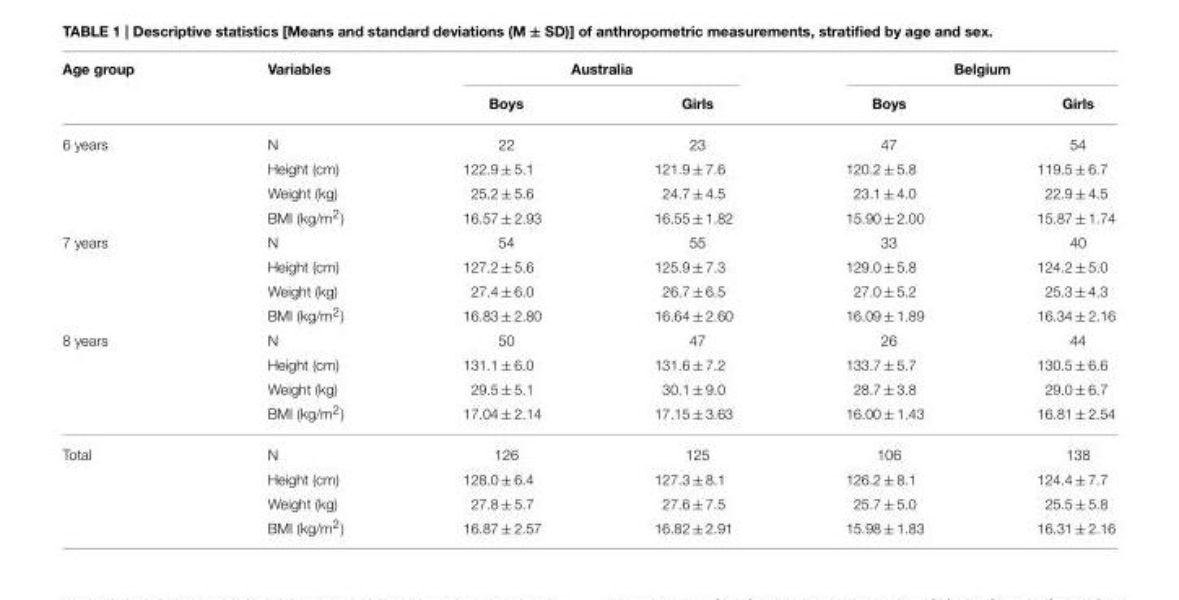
<table><thead><tr><td rowspan="2">Age group</td><td rowspan="2">Variables</td><td colspan="2">Australia</td><td colspan="2">Belgium</td></tr><tr><td>Boys</td><td>Girls</td><td>Boys</td><td>Girls</td></tr></thead><tbody><tr><td rowspan="4">6 years</td><td>N</td><td>22</td><td>23</td><td>47</td><td>54</td></tr><tr><td>Height (cm)</td><td>122.9 ± 5.1</td><td>121.9 ± 7.6</td><td>120.2 ± 5.8</td><td>119.5 ± 6.7</td></tr><tr><td>Weight (kg)</td><td>25.2 ± 5.6</td><td>24.7 ± 4.5</td><td>23.1 ± 4.0</td><td>22.9 ± 4.5</td></tr><tr><td>BMI (kg/m<sup>2</sup>)</td><td>16.57 ± 2.93</td><td>16.55 ± 1.82</td><td>15.90 ± 2.00</td><td>15.87 ± 1.74</td></tr><tr><td rowspan="4">7 years</td><td>N</td><td>54</td><td>55</td><td>33</td><td>40</td></tr><tr><td>Height (cm)</td><td>127.2 ± 5.6</td><td>125.9 ± 7.3</td><td>129.0 ± 5.8</td><td>124.2 ± 5.0</td></tr><tr><td>Weight (kg)</td><td>27.4 ± 6.0</td><td>26.7 ± 6.5</td><td>27.0 ± 5.2</td><td>25.3 ± 4.3</td></tr><tr><td>BMI (kg/m<sup>2</sup>)</td><td>16.83 ± 2.80</td><td>16.64 ± 2.60</td><td>16.09 ± 1.89</td><td>16.34 ± 2.16</td></tr><tr><td rowspan="4">8 years</td><td>N</td><td>50</td><td>47</td><td>26</td><td>44</td></tr><tr><td>Height (cm)</td><td>131.1 ± 6.0</td><td>131.6 ± 7.2</td><td>133.7 ± 5.7</td><td>130.5 ± 6.6</td></tr><tr><td>Weight (kg)</td><td>29.5 ± 5.1</td><td>30.1 ± 9.0</td><td>28.7 ± 3.8</td><td>29.0 ± 6.7</td></tr><tr><td>BMI (kg/m<sup>2</sup>)</td><td>17.04 ± 2.14</td><td>17.15 ± 3.63</td><td>16.00 ± 1.43</td><td>16.81 ± 2.54</td></tr><tr><td rowspan="4">Total</td><td>N</td><td>126</td><td>125</td><td>106</td><td>138</td></tr><tr><td>Height (cm)</td><td>128.0 ± 6.4</td><td>127.3 ± 8.1</td><td>126.2 ± 8.1</td><td>124.4 ± 7.7</td></tr><tr><td>Weight (kg)</td><td>27.8 ± 5.7</td><td>27.6 ± 7.5</td><td>25.7 ± 5.0</td><td>25.5 ± 5.8</td></tr><tr><td>BMI (kg/m<sup>2</sup>)</td><td>16.87 ± 2.57</td><td>16.82 ± 2.91</td><td>15.98 ± 1.83</td><td>16.31 ± 2.16</td></tr></tbody></table>